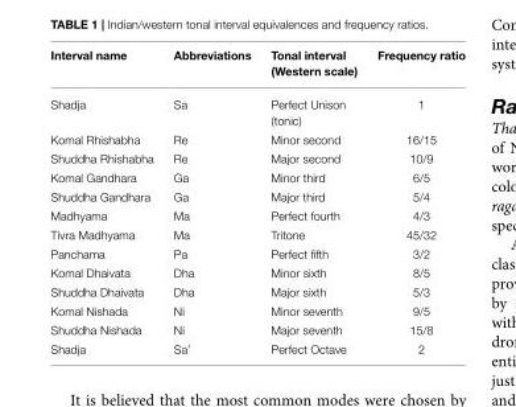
<table><thead><tr><td>Interval name</td><td>Abbreviations</td><td>Tonal interval (Western scale)</td><td>Frequency ratio</td></tr></thead><tbody><tr><td>Shadja</td><td>Sa</td><td>Perfect Unison (tonic)</td><td>1</td></tr><tr><td>Komal Rhishabha</td><td>Re</td><td>Minor second</td><td>16/15</td></tr><tr><td>Shuddha Rhishabha</td><td>Re</td><td>Major second</td><td>10/9</td></tr><tr><td>Komal Gandhara</td><td>Ga</td><td>Minor third</td><td>6/5</td></tr><tr><td>Shuddha Gandhara</td><td>Ga</td><td>Major third</td><td>5/4</td></tr><tr><td>Madhyama</td><td>Ma</td><td>Perfect fourth</td><td>4/3</td></tr><tr><td>Tivra Madhyama</td><td>Ma</td><td>Tritone</td><td>45/32</td></tr><tr><td>Panchama</td><td>Pa</td><td>Perfect fifth</td><td>3/2</td></tr><tr><td>Komal Dhaivata</td><td>Dha</td><td>Minor sixth</td><td>8/5</td></tr><tr><td>Shuddha Dhaivata</td><td>Dha</td><td>Major sixth</td><td>5/3</td></tr><tr><td>Komal Nishada</td><td>Ni</td><td>Minor seventh</td><td>9/5</td></tr><tr><td>Shuddha Nishada</td><td>Ni</td><td>Major seventh</td><td>15/8</td></tr><tr><td>Shadja</td><td>Sa’</td><td>Perfect Octave</td><td>2</td></tr></tbody></table>